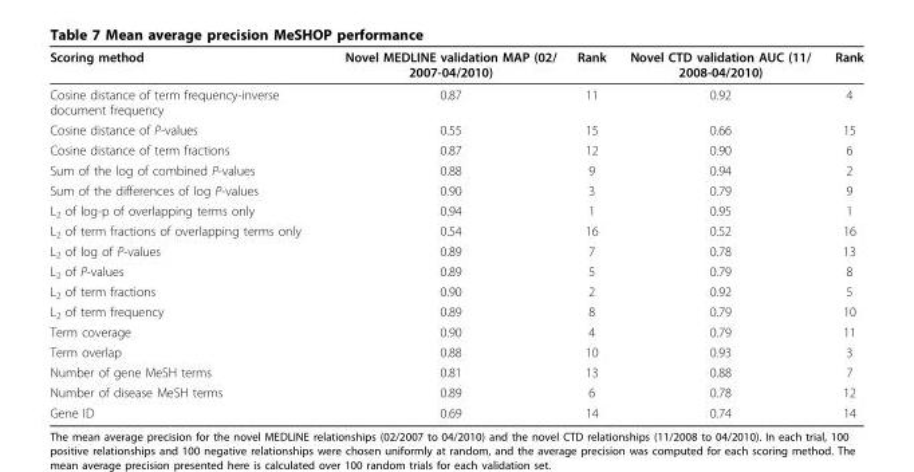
<table><thead><tr><td>Scoring method</td><td>Novel MEDLINE validation MAP (02/ 2007-04/2010)</td><td>Rank</td><td>Novel CTD validation AUC (11/ 2008-04/2010)</td><td>Rank</td></tr></thead><tbody><tr><td>Cosine distance of term frequency-inverse document frequency</td><td>0.87</td><td>11</td><td>0.92</td><td>4</td></tr><tr><td>Cosine distance of P-values</td><td>0.55</td><td>15</td><td>0.66</td><td>15</td></tr><tr><td>Cosine distance of term fractions</td><td>0.87</td><td>12</td><td>0.90</td><td>6</td></tr><tr><td>Sum of the log of combined P-values</td><td>0.88</td><td>9</td><td>0.94</td><td>2</td></tr><tr><td>Sum of the differences of log P-values</td><td>0.90</td><td>3</td><td>0.79</td><td>9</td></tr><tr><td>L<sub>2</sub> of log-p of overlapping terms only</td><td>0.94</td><td>1</td><td>0.95</td><td>1</td></tr><tr><td>L<sub>2</sub> of term fractions of overlapping terms only</td><td>0.54</td><td>16</td><td>0.52</td><td>16</td></tr><tr><td>L<sub>2</sub> of log of P-values</td><td>0.89</td><td>7</td><td>0.78</td><td>13</td></tr><tr><td>L<sub>2</sub> of P-values</td><td>0.89</td><td>5</td><td>0.79</td><td>8</td></tr><tr><td>L<sub>2</sub> of term fractions</td><td>0.90</td><td>2</td><td>0.92</td><td>5</td></tr><tr><td>L<sub>2</sub> of term frequency</td><td>0.89</td><td>8</td><td>0.79</td><td>10</td></tr><tr><td>Term coverage</td><td>0.90</td><td>4</td><td>0.79</td><td>11</td></tr><tr><td>Term overlap</td><td>0.88</td><td>10</td><td>0.93</td><td>3</td></tr><tr><td>Number of gene MeSH terms</td><td>0.81</td><td>13</td><td>0.88</td><td>7</td></tr><tr><td>Number of disease MeSH terms</td><td>0.89</td><td>6</td><td>0.78</td><td>12</td></tr><tr><td>Gene ID</td><td>0.69</td><td>14</td><td>0.74</td><td>14</td></tr></tbody></table>